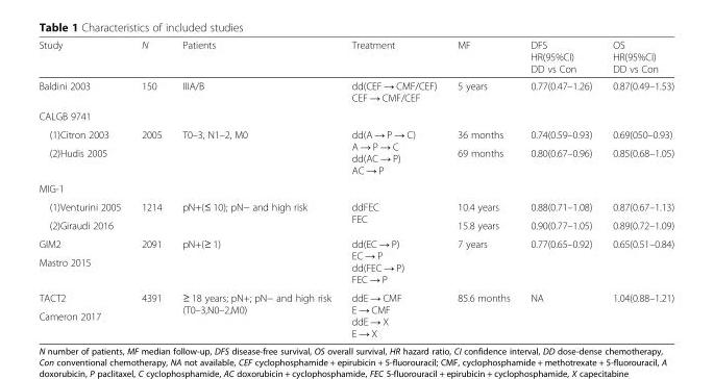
<table><thead><tr><td>Study</td><td>N</td><td>Patients</td><td>Treatment</td><td>MF</td><td>DFS HR(95%CI) DD vs Con</td><td>OS HR(95%CI) DD vs Con</td></tr></thead><tbody><tr><td>Baldini 2003</td><td>150</td><td>IIIA/B</td><td>dd(CEF → CMF/CEF) CEF → CMF/CEF</td><td>5 years</td><td>0.77(0.47–1.26)</td><td>0.87(0.49–1.53)</td></tr><tr><td colspan="7">CALGB 9741</td></tr><tr><td>(1)Citron 2003</td><td rowspan="2">2005</td><td rowspan="2">T0–3, N1–2, M0</td><td rowspan="2">dd(A → P → C) A → P → C dd(AC → P) AC → P</td><td>36 months</td><td>0.74(0.59–0.93)</td><td>0.69(050–0.93)</td></tr><tr><td>(2)Hudis 2005</td><td>69 months</td><td>0.80(0.67–0.96)</td><td>0.85(0.68–1.05)</td></tr><tr><td colspan="7">MIG-1</td></tr><tr><td>(1)Venturini 2005</td><td rowspan="2">1214</td><td rowspan="2">pN+(≤ 10); pN− and high risk</td><td rowspan="2">ddFEC FEC</td><td>10.4 years</td><td>0.88(0.71–1.08)</td><td>0.87(0.67–1.13)</td></tr><tr><td>(2)Giraudi 2016</td><td>15.8 years</td><td>0.90(0.77–1.05)</td><td>0.89(0.72–1.09)</td></tr><tr><td>GIM2</td><td rowspan="2">2091</td><td rowspan="2">pN+(≥ 1)</td><td rowspan="2">dd(EC → P) EC → P dd(FEC → P) FEC → P</td><td rowspan="2">7 years</td><td rowspan="2">0.77(0.65–0.92)</td><td rowspan="2">0.65(0.51–0.84)</td></tr><tr><td>Mastro 2015</td></tr><tr><td>TACT2</td><td rowspan="2">4391</td><td rowspan="2">≥ 18 years; pN+; pN− and high risk (T0–3,N0–2,M0)</td><td rowspan="2">ddE → CMF E → CMF ddE → X E → X</td><td rowspan="2">85.6 months</td><td rowspan="2">NA</td><td rowspan="2">1.04(0.88–1.21)</td></tr><tr><td>Cameron 2017</td></tr></tbody></table>